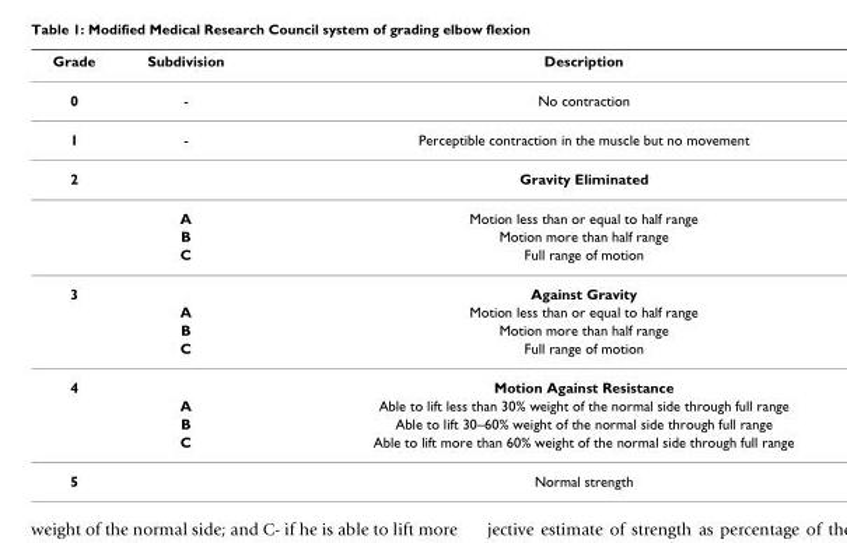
<table><thead><tr><td>Grade</td><td>Subdivision</td><td>Description</td></tr></thead><tbody><tr><td>0</td><td>-</td><td>No contraction</td></tr><tr><td>1</td><td>-</td><td>Perceptible contraction in the muscle but no movement</td></tr><tr><td rowspan="4">2</td><td></td><td>Gravity Eliminated</td></tr><tr><td>A</td><td>Motion less than or equal to half range</td></tr><tr><td>B</td><td>Motion more than half range</td></tr><tr><td>C</td><td>Full range of motion</td></tr><tr><td rowspan="4">3</td><td></td><td>Against Gravity</td></tr><tr><td>A</td><td>Motion less than or equal to half range</td></tr><tr><td>B</td><td>Motion more than half range</td></tr><tr><td>C</td><td>Full range of motion</td></tr><tr><td rowspan="4">4</td><td></td><td>Motion Against Resistance</td></tr><tr><td>A</td><td>Able to lift less than 30% weight of the normal side through full range</td></tr><tr><td>B</td><td>Able to lift 30–60% weight of the normal side through full range</td></tr><tr><td>C</td><td>Able to lift more than 60% weight of the normal side through full range</td></tr><tr><td>5</td><td></td><td>Normal strength</td></tr></tbody></table>